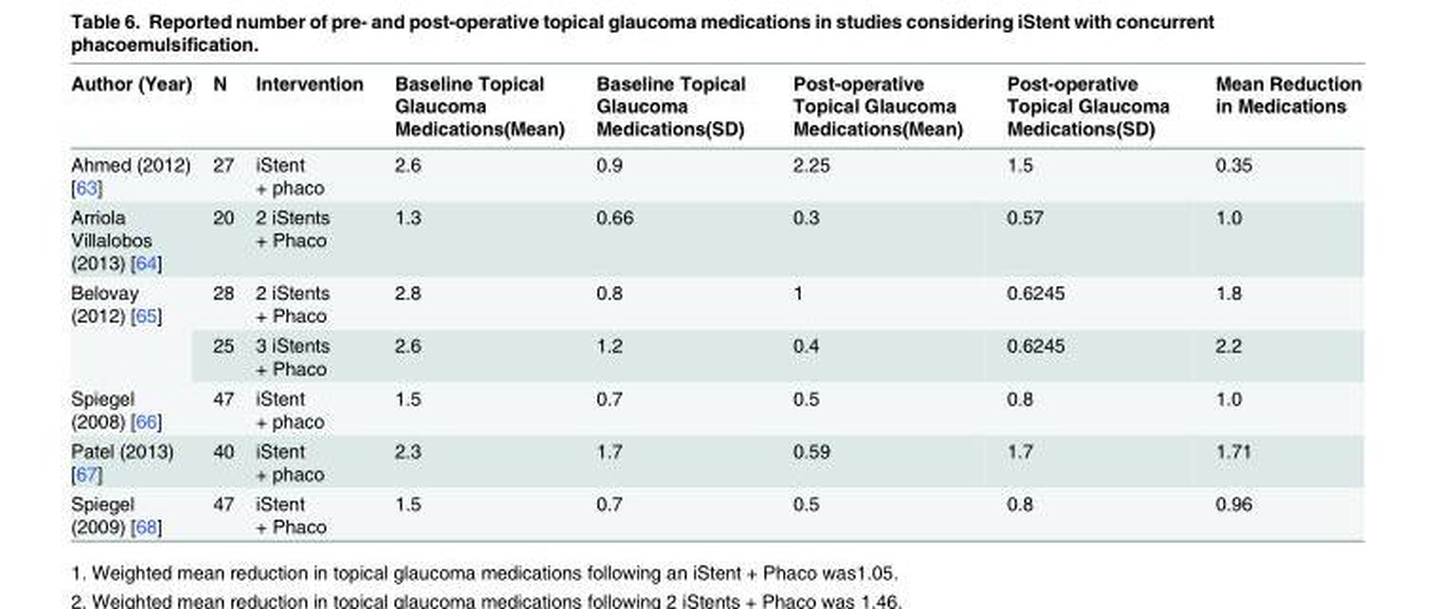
<table><thead><tr><td>Author (Year)</td><td>N</td><td>Intervention</td><td>Baseline Topical Glaucoma Medications(Mean)</td><td>Baseline Topical Glaucoma Medications(SD)</td><td>Post-operative Topical Glaucoma Medications(Mean)</td><td>Post-operative Topical Glaucoma Medications(SD)</td><td>Mean Reduction in Medications</td></tr></thead><tbody><tr><td>Ahmed (2012) [63]</td><td>27</td><td>iStent + phaco</td><td>2.6</td><td>0.9</td><td>2.25</td><td>1.5</td><td>0.35</td></tr><tr><td>Arriola Villalobos (2013) [64]</td><td>20</td><td>2 iStents + Phaco</td><td>1.3</td><td>0.66</td><td>0.3</td><td>0.57</td><td>1.0</td></tr><tr><td rowspan="2">Belovay (2012) [65]</td><td>28</td><td>2 iStents + Phaco</td><td>2.8</td><td>0.8</td><td>1</td><td>0.6245</td><td>1.8</td></tr><tr><td>25</td><td>3 iStents + Phaco</td><td>2.6</td><td>1.2</td><td>0.4</td><td>0.6245</td><td>2.2</td></tr><tr><td>Spiegel (2008) [66]</td><td>47</td><td>iStent + phaco</td><td>1.5</td><td>0.7</td><td>0.5</td><td>0.8</td><td>1.0</td></tr><tr><td>Patel (2013) [67]</td><td>40</td><td>iStent + phaco</td><td>2.3</td><td>1.7</td><td>0.59</td><td>1.7</td><td>1.71</td></tr><tr><td>Spiegel (2009) [68]</td><td>47</td><td>iStent + Phaco</td><td>1.5</td><td>0.7</td><td>0.5</td><td>0.8</td><td>0.96</td></tr></tbody></table>